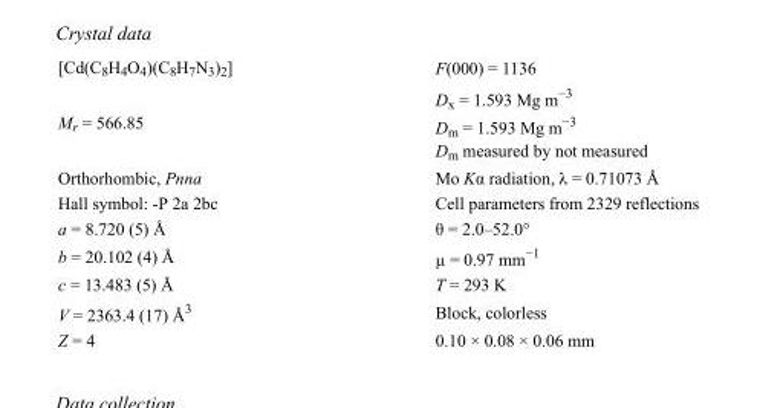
<table><tbody><tr><td>[Cd(C<sub>8</sub>H<sub>4</sub>O<sub>4</sub>)(C<sub>8</sub>H<sub>7</sub>N<sub>3</sub>)<sub>2</sub>]</td><td>F(000) = 1136</td></tr><tr><td>M<sub>r</sub> = 566.85</td><td>D<sub>x</sub> = 1.593 Mg m<sup>−3</sup> D<sub>m</sub> = 1.593 Mg m<sup>−3</sup> D<sub>m</sub> measured by not measured</td></tr><tr><td>Orthorhombic, Pnna</td><td>Mo Kα radiation, λ = 0.71073 Å</td></tr><tr><td>Hall symbol: -P 2a 2bc</td><td>Cell parameters from 2329 reflections</td></tr><tr><td>a = 8.720 (5) Å</td><td>θ = 2.0–52.0°</td></tr><tr><td>b = 20.102 (4) Å</td><td>µ = 0.97 mm<sup>−1</sup></td></tr><tr><td>c = 13.483 (5) Å</td><td>T = 293 K</td></tr><tr><td>V = 2363.4 (17) Å<sup>3</sup></td><td>Block, colorless</td></tr><tr><td>Z = 4</td><td>0.10 × 0.08 × 0.06 mm</td></tr></tbody></table>